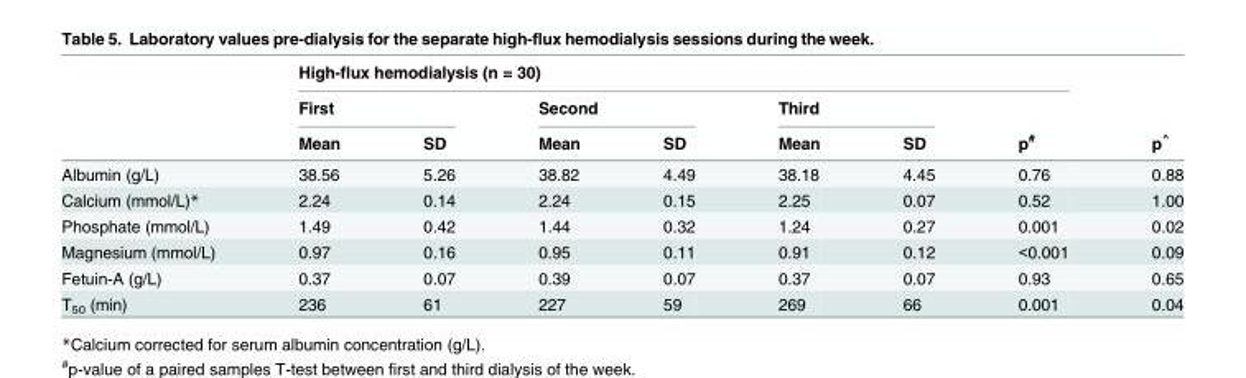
<table><thead><tr><td rowspan="3"></td><td colspan="7">High-flux hemodialysis (n = 30)</td><td rowspan="3">p<sup>^</sup></td></tr><tr><td colspan="2">First</td><td colspan="2">Second</td><td colspan="2">Third</td><td rowspan="2">p<sup>#</sup></td></tr><tr><td>Mean</td><td>SD</td><td>Mean</td><td>SD</td><td>Mean</td><td>SD</td></tr></thead><tbody><tr><td>Albumin (g/L)</td><td>38.56</td><td>5.26</td><td>38.82</td><td>4.49</td><td>38.18</td><td>4.45</td><td>0.76</td><td>0.88</td></tr><tr><td>Calcium (mmol/L)*</td><td>2.24</td><td>0.14</td><td>2.24</td><td>0.15</td><td>2.25</td><td>0.07</td><td>0.52</td><td>1.00</td></tr><tr><td>Phosphate (mmol/L)</td><td>1.49</td><td>0.42</td><td>1.44</td><td>0.32</td><td>1.24</td><td>0.27</td><td>0.001</td><td>0.02</td></tr><tr><td>Magnesium (mmol/L)</td><td>0.97</td><td>0.16</td><td>0.95</td><td>0.11</td><td>0.91</td><td>0.12</td><td>&lt;0.001</td><td>0.09</td></tr><tr><td>Fetuin-A (g/L)</td><td>0.37</td><td>0.07</td><td>0.39</td><td>0.07</td><td>0.37</td><td>0.07</td><td>0.93</td><td>0.65</td></tr><tr><td>T<sub>50</sub> (min)</td><td>236</td><td>61</td><td>227</td><td>59</td><td>269</td><td>66</td><td>0.001</td><td>0.04</td></tr></tbody></table>